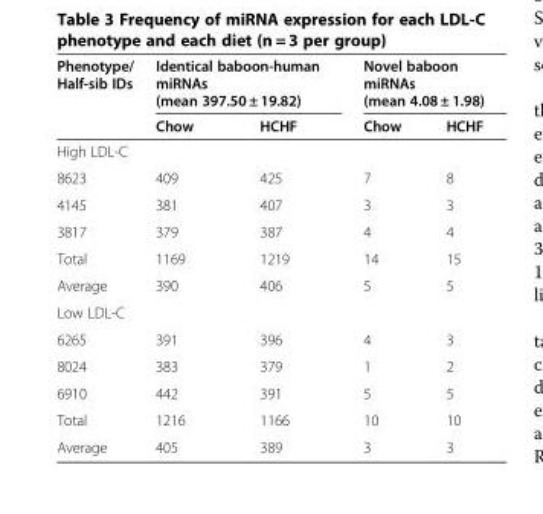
<table><thead><tr><td rowspan="2">Phenotype/ Half-sib IDs</td><td colspan="2">Identical baboon-human miRNAs (mean 397.50 ± 19.82)</td><td colspan="2">Novel baboon miRNAs (mean 4.08 ± 1.98)</td></tr><tr><td>Chow</td><td>HCHF</td><td>Chow</td><td>HCHF</td></tr></thead><tbody><tr><td colspan="5">High LDL-C</td></tr><tr><td>8623</td><td>409</td><td>425</td><td>7</td><td>8</td></tr><tr><td>4145</td><td>381</td><td>407</td><td>3</td><td>3</td></tr><tr><td>3817</td><td>379</td><td>387</td><td>4</td><td>4</td></tr><tr><td>Total</td><td>1169</td><td>1219</td><td>14</td><td>15</td></tr><tr><td>Average</td><td>390</td><td>406</td><td>5</td><td>5</td></tr><tr><td colspan="5">Low LDL-C</td></tr><tr><td>6265</td><td>391</td><td>396</td><td>4</td><td>3</td></tr><tr><td>8024</td><td>383</td><td>379</td><td>1</td><td>2</td></tr><tr><td>6910</td><td>442</td><td>391</td><td>5</td><td>5</td></tr><tr><td>Total</td><td>1216</td><td>1166</td><td>10</td><td>10</td></tr><tr><td>Average</td><td>405</td><td>389</td><td>3</td><td>3</td></tr></tbody></table>